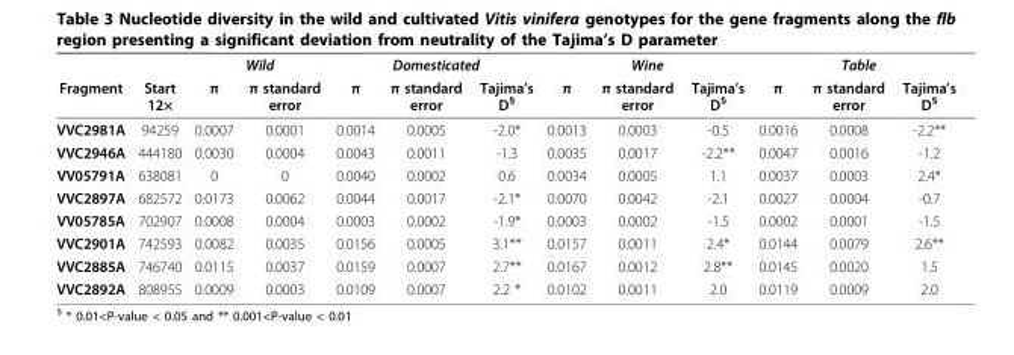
<table><thead><tr><td rowspan="2">Fragment</td><td rowspan="2">Start 12×</td><td colspan="2">Wild</td><td colspan="3">Domesticated</td><td colspan="3">Wine</td><td colspan="3">Table</td></tr><tr><td>π</td><td>π standard error</td><td>π</td><td>π standard error</td><td>Tajima’s D<sup>§</sup></td><td>π</td><td>π standard error</td><td>Tajima’s D<sup>§</sup></td><td>π</td><td>π standard error</td><td>Tajima’s D<sup>§</sup></td></tr></thead><tbody><tr><td>VVC2981A</td><td>94259</td><td>0.0007</td><td>0.0001</td><td>0.0014</td><td>0.0005</td><td>-2.0*</td><td>0.0013</td><td>0.0003</td><td>-0.5</td><td>0.0016</td><td>0.0008</td><td>-2.2**</td></tr><tr><td>VVC2946A</td><td>444180</td><td>0.0030</td><td>0.0004</td><td>0.0043</td><td>0.0011</td><td>-1.3</td><td>0.0035</td><td>0.0017</td><td>-2.2**</td><td>0.0047</td><td>0.0016</td><td>-1.2</td></tr><tr><td>VV05791A</td><td>638081</td><td>0</td><td>0</td><td>0.0040</td><td>0.0002</td><td>0.6</td><td>0.0034</td><td>0.0005</td><td>1.1</td><td>0.0037</td><td>0.0003</td><td>2.4*</td></tr><tr><td>VVC2897A</td><td>682572</td><td>0.0173</td><td>0.0062</td><td>0.0044</td><td>0.0017</td><td>-2.1*</td><td>0.0070</td><td>0.0042</td><td>-2.1</td><td>0.0027</td><td>0.0004</td><td>-0.7</td></tr><tr><td>VV05785A</td><td>702907</td><td>0.0008</td><td>0.0004</td><td>0.0003</td><td>0.0002</td><td>-1.9*</td><td>0.0003</td><td>0.0002</td><td>-1.5</td><td>0.0002</td><td>0.0001</td><td>-1.5</td></tr><tr><td>VVC2901A</td><td>742593</td><td>0.0082</td><td>0.0035</td><td>0.0156</td><td>0.0005</td><td>3.1**</td><td>0.0157</td><td>0.0011</td><td>2.4*</td><td>0.0144</td><td>0.0079</td><td>2.6**</td></tr><tr><td>VVC2885A</td><td>746740</td><td>0.0115</td><td>0.0037</td><td>0.0159</td><td>0.0007</td><td>2.7**</td><td>0.0167</td><td>0.0012</td><td>2.8**</td><td>0.0145</td><td>0.0020</td><td>1.5</td></tr><tr><td>VVC2892A</td><td>808955</td><td>0.0009</td><td>0.0003</td><td>0.0109</td><td>0.0007</td><td>2.2 *</td><td>0.0102</td><td>0.0011</td><td>2.0</td><td>0.0119</td><td>0.0009</td><td>2.0</td></tr></tbody></table>